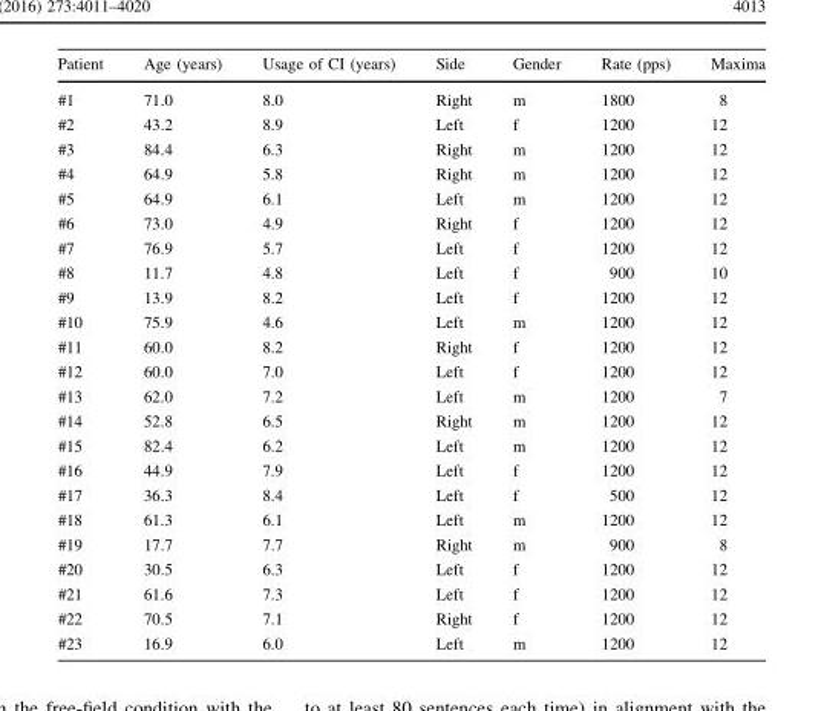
<table><thead><tr><td>Patient</td><td>Age (years)</td><td>Usage of CI (years)</td><td>Side</td><td>Gender</td><td>Rate (pps)</td><td>Maxima</td></tr></thead><tbody><tr><td>#1</td><td>71.0</td><td>8.0</td><td>Right</td><td>m</td><td>1800</td><td>8</td></tr><tr><td>#2</td><td>43.2</td><td>8.9</td><td>Left</td><td>f</td><td>1200</td><td>12</td></tr><tr><td>#3</td><td>84.4</td><td>6.3</td><td>Right</td><td>m</td><td>1200</td><td>12</td></tr><tr><td>#4</td><td>64.9</td><td>5.8</td><td>Right</td><td>m</td><td>1200</td><td>12</td></tr><tr><td>#5</td><td>64.9</td><td>6.1</td><td>Left</td><td>m</td><td>1200</td><td>12</td></tr><tr><td>#6</td><td>73.0</td><td>4.9</td><td>Right</td><td>f</td><td>1200</td><td>12</td></tr><tr><td>#7</td><td>76.9</td><td>5.7</td><td>Left</td><td>f</td><td>1200</td><td>12</td></tr><tr><td>#8</td><td>11.7</td><td>4.8</td><td>Left</td><td>f</td><td>900</td><td>10</td></tr><tr><td>#9</td><td>13.9</td><td>8.2</td><td>Left</td><td>f</td><td>1200</td><td>12</td></tr><tr><td>#10</td><td>75.9</td><td>4.6</td><td>Left</td><td>m</td><td>1200</td><td>12</td></tr><tr><td>#11</td><td>60.0</td><td>8.2</td><td>Right</td><td>f</td><td>1200</td><td>12</td></tr><tr><td>#12</td><td>60.0</td><td>7.0</td><td>Left</td><td>f</td><td>1200</td><td>12</td></tr><tr><td>#13</td><td>62.0</td><td>7.2</td><td>Left</td><td>m</td><td>1200</td><td>7</td></tr><tr><td>#14</td><td>52.8</td><td>6.5</td><td>Right</td><td>m</td><td>1200</td><td>12</td></tr><tr><td>#15</td><td>82.4</td><td>6.2</td><td>Left</td><td>m</td><td>1200</td><td>12</td></tr><tr><td>#16</td><td>44.9</td><td>7.9</td><td>Left</td><td>f</td><td>1200</td><td>12</td></tr><tr><td>#17</td><td>36.3</td><td>8.4</td><td>Left</td><td>f</td><td>500</td><td>12</td></tr><tr><td>#18</td><td>61.3</td><td>6.1</td><td>Left</td><td>m</td><td>1200</td><td>12</td></tr><tr><td>#19</td><td>17.7</td><td>7.7</td><td>Right</td><td>m</td><td>900</td><td>8</td></tr><tr><td>#20</td><td>30.5</td><td>6.3</td><td>Left</td><td>f</td><td>1200</td><td>12</td></tr><tr><td>#21</td><td>61.6</td><td>7.3</td><td>Left</td><td>f</td><td>1200</td><td>12</td></tr><tr><td>#22</td><td>70.5</td><td>7.1</td><td>Right</td><td>f</td><td>1200</td><td>12</td></tr><tr><td>#23</td><td>16.9</td><td>6.0</td><td>Left</td><td>m</td><td>1200</td><td>12</td></tr></tbody></table>